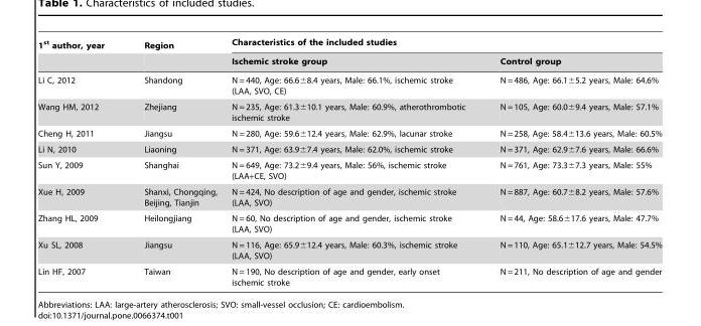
<table><thead><tr><td rowspan="2">1<sup>st</sup> author, year</td><td rowspan="2">Region</td><td colspan="2">Characteristics of the included studies</td></tr><tr><td>Ischemic stroke group</td><td>Control group</td></tr></thead><tbody><tr><td>Li C, 2012</td><td>Shandong</td><td>N = 440, Age: 66.6±8.4 years, Male: 66.1%, ischemic stroke (LAA, SVO, CE)</td><td>N = 486, Age: 66.1±5.2 years, Male: 64.6%</td></tr><tr><td>Wang HM, 2012</td><td>Zhejiang</td><td>N = 235, Age: 61.3±10.1 years, Male: 60.9%, atherothrombotic ischemic stroke</td><td>N = 105, Age: 60.0±9.4 years, Male: 57.1%</td></tr><tr><td>Cheng H, 2011</td><td>Jiangsu</td><td>N = 280, Age: 59.6±12.4 years, Male: 62.9%, lacunar stroke</td><td>N = 258, Age: 58.4±13.6 years, Male: 60.5%</td></tr><tr><td>Li N, 2010</td><td>Liaoning</td><td>N = 371, Age: 63.9±7.4 years, Male: 62.0%, ischemic stroke</td><td>N = 371, Age: 62.9±7.6 years, Male: 66.6%</td></tr><tr><td>Sun Y, 2009</td><td>Shanghai</td><td>N = 649, Age: 73.2±9.4 years, Male: 56%, ischemic stroke (LAA+CE, SVO)</td><td>N = 761, Age: 73.3±7.3 years, Male: 55%</td></tr><tr><td>Xue H, 2009</td><td>Shanxi, Chongqing, Beijing, Tianjin</td><td>N = 424, No description of age and gender, ischemic stroke (LAA, SVO)</td><td>N = 887, Age: 60.7±8.2 years, Male: 57.6%</td></tr><tr><td>Zhang HL, 2009</td><td>Heilongjiang</td><td>N = 60, No description of age and gender, ischemic stroke (LAA, SVO)</td><td>N = 44, Age: 58.6±17.6 years, Male: 47.7%</td></tr><tr><td>Xu SL, 2008</td><td>Jiangsu</td><td>N = 116, Age: 65.9±12.4 years, Male: 60.3%, ischemic stroke (LAA, SVO)</td><td>N = 110, Age: 65.1±12.7 years, Male: 54.5%</td></tr><tr><td>Lin HF, 2007</td><td>Taiwan</td><td>N = 190, No description of age and gender, early onset ischemic stroke</td><td>N = 211, No description of age and gender</td></tr></tbody></table>